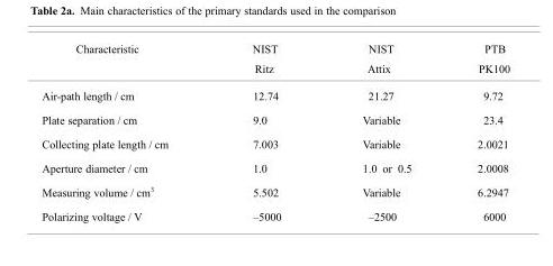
<table><thead><tr><td>Characteristic</td><td>NIST Ritz</td><td>NIST Attix</td><td>PTB PK100</td></tr></thead><tbody><tr><td>Air-path length / cm</td><td>12.74</td><td>21.27</td><td>9.72</td></tr><tr><td>Plate separation / cm</td><td>9.0</td><td>Variable</td><td>23.4</td></tr><tr><td>Collecting plate length / cm</td><td>7.003</td><td>Variable</td><td>2.0021</td></tr><tr><td>Aperture diameter / cm</td><td>1.0</td><td>1.0 or 0.5</td><td>2.0008</td></tr><tr><td>Measuring volume / cm<sup>3</sup></td><td>5.502</td><td>Variable</td><td>6.2947</td></tr><tr><td>Polarizing voltage / V</td><td>–5000</td><td>–2500</td><td>6000</td></tr></tbody></table>